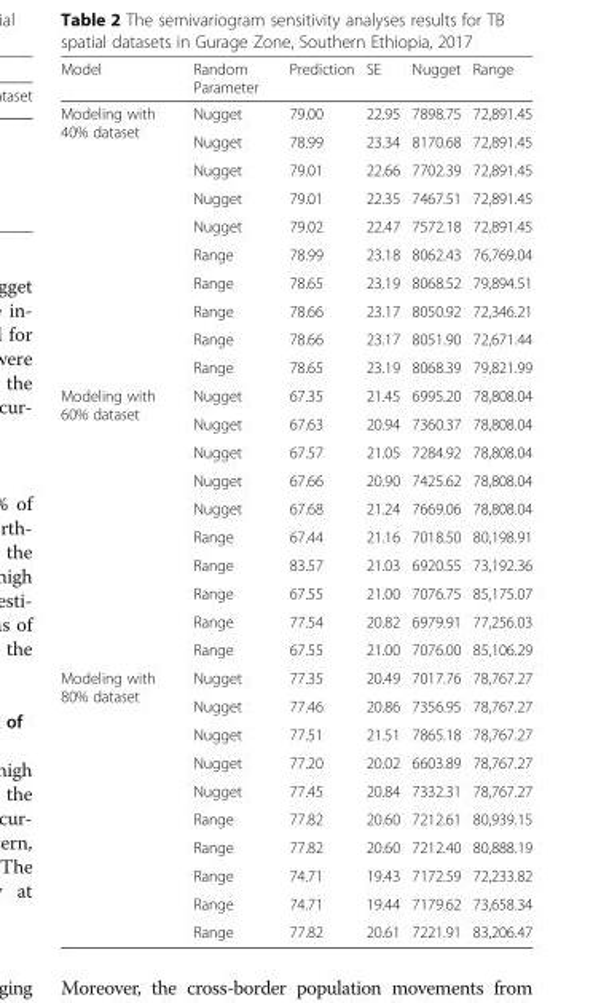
<table><thead><tr><td>Model</td><td>Random Parameter</td><td>Prediction</td><td>SE</td><td>Nugget</td><td>Range</td></tr></thead><tbody><tr><td rowspan="10">Modeling with 40% dataset</td><td>Nugget</td><td>79.00</td><td>22.95</td><td>7898.75</td><td>72,891.45</td></tr><tr><td>Nugget</td><td>78.99</td><td>23.34</td><td>8170.68</td><td>72,891.45</td></tr><tr><td>Nugget</td><td>79.01</td><td>22.66</td><td>7702.39</td><td>72,891.45</td></tr><tr><td>Nugget</td><td>79.01</td><td>22.35</td><td>7467.51</td><td>72,891.45</td></tr><tr><td>Nugget</td><td>79.02</td><td>22.47</td><td>7572.18</td><td>72,891.45</td></tr><tr><td>Range</td><td>78.99</td><td>23.18</td><td>8062.43</td><td>76,769.04</td></tr><tr><td>Range</td><td>78.65</td><td>23.19</td><td>8068.52</td><td>79,894.51</td></tr><tr><td>Range</td><td>78.66</td><td>23.17</td><td>8050.92</td><td>72,346.21</td></tr><tr><td>Range</td><td>78.66</td><td>23.17</td><td>8051.90</td><td>72,671.44</td></tr><tr><td>Range</td><td>78.65</td><td>23.19</td><td>8068.39</td><td>79,821.99</td></tr><tr><td rowspan="10">Modeling with 60% dataset</td><td>Nugget</td><td>67.35</td><td>21.45</td><td>6995.20</td><td>78,808.04</td></tr><tr><td>Nugget</td><td>67.63</td><td>20.94</td><td>7360.37</td><td>78,808.04</td></tr><tr><td>Nugget</td><td>67.57</td><td>21.05</td><td>7284.92</td><td>78,808.04</td></tr><tr><td>Nugget</td><td>67.66</td><td>20.90</td><td>7425.62</td><td>78,808.04</td></tr><tr><td>Nugget</td><td>67.68</td><td>21.24</td><td>7669.06</td><td>78,808.04</td></tr><tr><td>Range</td><td>67.44</td><td>21.16</td><td>7018.50</td><td>80,198.91</td></tr><tr><td>Range</td><td>83.57</td><td>21.03</td><td>6920.55</td><td>73,192.36</td></tr><tr><td>Range</td><td>67.55</td><td>21.00</td><td>7076.75</td><td>85,175.07</td></tr><tr><td>Range</td><td>77.54</td><td>20.82</td><td>6979.91</td><td>77,256.03</td></tr><tr><td>Range</td><td>67.55</td><td>21.00</td><td>7076.00</td><td>85,106.29</td></tr><tr><td rowspan="10">Modeling with 80% dataset</td><td>Nugget</td><td>77.35</td><td>20.49</td><td>7017.76</td><td>78,767.27</td></tr><tr><td>Nugget</td><td>77.46</td><td>20.86</td><td>7356.95</td><td>78,767.27</td></tr><tr><td>Nugget</td><td>77.51</td><td>21.51</td><td>7865.18</td><td>78,767.27</td></tr><tr><td>Nugget</td><td>77.20</td><td>20.02</td><td>6603.89</td><td>78,767.27</td></tr><tr><td>Nugget</td><td>77.45</td><td>20.84</td><td>7332.31</td><td>78,767.27</td></tr><tr><td>Range</td><td>77.82</td><td>20.60</td><td>7212.61</td><td>80,939.15</td></tr><tr><td>Range</td><td>77.82</td><td>20.60</td><td>7212.40</td><td>80,888.19</td></tr><tr><td>Range</td><td>74.71</td><td>19.43</td><td>7172.59</td><td>72,233.82</td></tr><tr><td>Range</td><td>74.71</td><td>19.44</td><td>7179.62</td><td>73,658.34</td></tr><tr><td>Range</td><td>77.82</td><td>20.61</td><td>7221.91</td><td>83,206.47</td></tr></tbody></table>